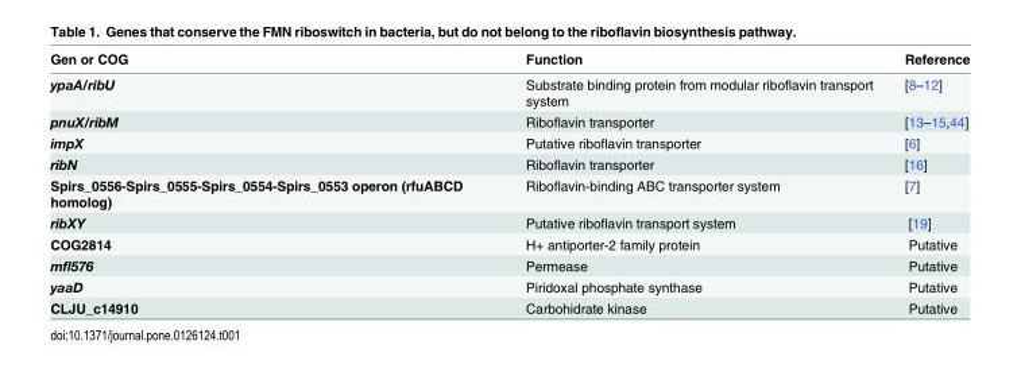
<table><thead><tr><td>Gen or COG</td><td>Function</td><td>Reference</td></tr></thead><tbody><tr><td>ypaA/ribU</td><td>Substrate binding protein from modular riboflavin transport system</td><td>[8–12]</td></tr><tr><td>pnuX/ribM</td><td>Riboflavin transporter</td><td>[13–15,44]</td></tr><tr><td>impX</td><td>Putative riboflavin transporter</td><td>[6]</td></tr><tr><td>ribN</td><td>Riboflavin transporter</td><td>[16]</td></tr><tr><td>Spirs_0556-Spirs_0555-Spirs_0554-Spirs_0553 operon (rfuABCD homolog)</td><td>Riboflavin-binding ABC transporter system</td><td>[7]</td></tr><tr><td>ribXY</td><td>Putative riboflavin transport system</td><td>[19]</td></tr><tr><td>COG2814</td><td>H+ antiporter-2 family protein</td><td>Putative</td></tr><tr><td>mfl576</td><td>Permease</td><td>Putative</td></tr><tr><td>yaaD</td><td>Piridoxal phosphate synthase</td><td>Putative</td></tr><tr><td>CLJU_c14910</td><td>Carbohidrate kinase</td><td>Putative</td></tr></tbody></table>